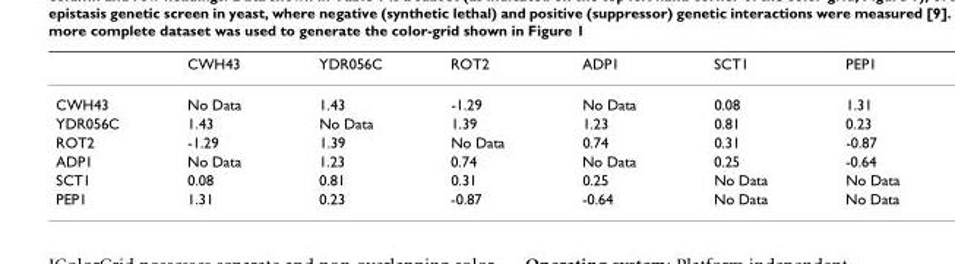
<table><thead><tr><td></td><td>CWH43</td><td>YDR056C</td><td>ROT2</td><td>ADP1</td><td>SCT1</td><td>PEP1</td></tr></thead><tbody><tr><td>CWH43</td><td>No Data</td><td>1.43</td><td>-1.29</td><td>No Data</td><td>0.08</td><td>1.31</td></tr><tr><td>YDR056C</td><td>1.43</td><td>No Data</td><td>1.39</td><td>1.23</td><td>0.81</td><td>0.23</td></tr><tr><td>ROT2</td><td>-1.29</td><td>1.39</td><td>No Data</td><td>0.74</td><td>0.31</td><td>-0.87</td></tr><tr><td>ADP1</td><td>No Data</td><td>1.23</td><td>0.74</td><td>No Data</td><td>0.25</td><td>-0.64</td></tr><tr><td>SCT1</td><td>0.08</td><td>0.81</td><td>0.31</td><td>0.25</td><td>No Data</td><td>No Data</td></tr><tr><td>PEP1</td><td>1.31</td><td>0.23</td><td>-0.87</td><td>-0.64</td><td>No Data</td><td>No Data</td></tr></tbody></table>